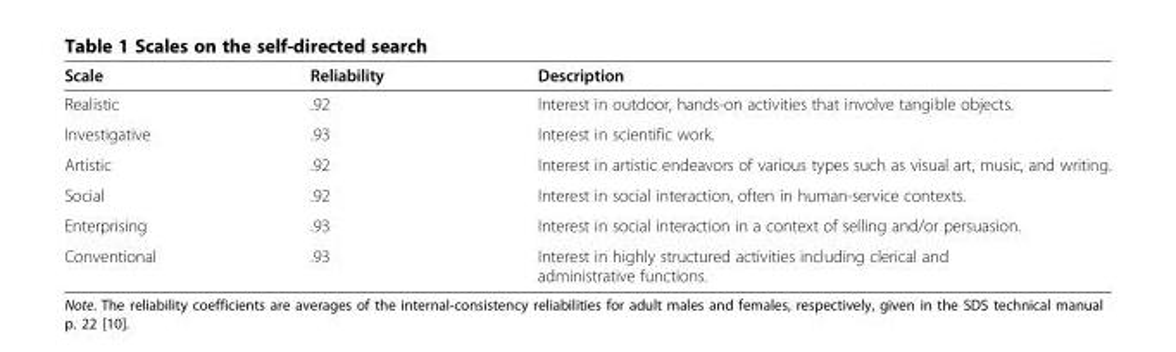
<table><thead><tr><td>Scale</td><td>Reliability</td><td>Description</td></tr></thead><tbody><tr><td>Realistic</td><td>.92</td><td>Interest in outdoor, hands-on activities that involve tangible objects.</td></tr><tr><td>Investigative</td><td>.93</td><td>Interest in scientific work.</td></tr><tr><td>Artistic</td><td>.92</td><td>Interest in artistic endeavors of various types such as visual art, music, and writing.</td></tr><tr><td>Social</td><td>.92</td><td>Interest in social interaction, often in human-service contexts.</td></tr><tr><td>Enterprising</td><td>.93</td><td>Interest in social interaction in a context of selling and/or persuasion.</td></tr><tr><td>Conventional</td><td>.93</td><td>Interest in highly structured activities including clerical and administrative functions.</td></tr></tbody></table>